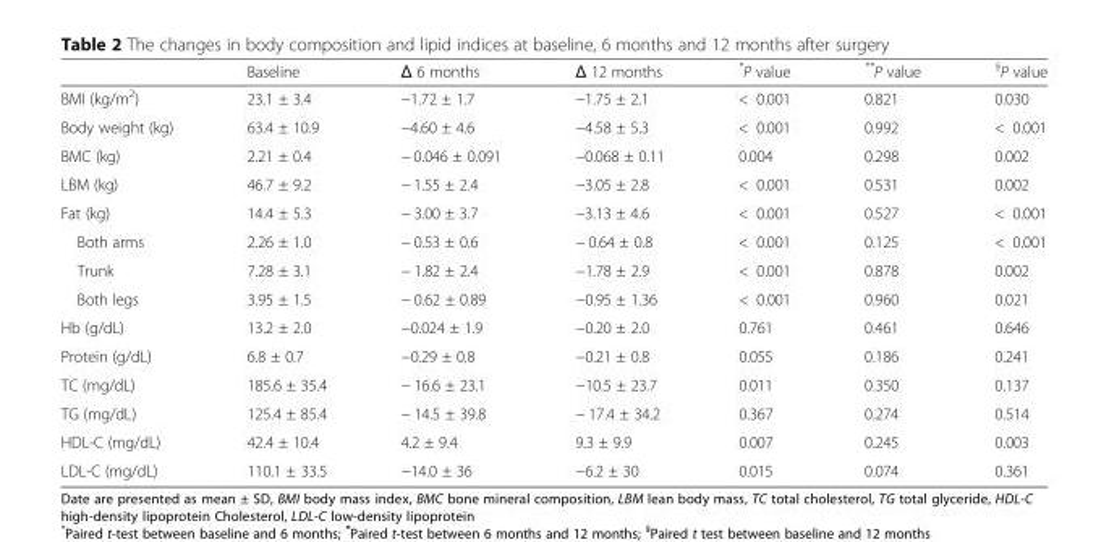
<table><thead><tr><td></td><td>Baseline</td><td>Δ 6 months</td><td>Δ 12 months</td><td>*P value</td><td>**P value</td><td><sup>§</sup>P value</td></tr></thead><tbody><tr><td>BMI (kg/m<sup>2</sup>)</td><td>23.1 ± 3.4</td><td>−1.72 ± 1.7</td><td>−1.75 ± 2.1</td><td>&lt; 0.001</td><td>0.821</td><td>0.030</td></tr><tr><td>Body weight (kg)</td><td>63.4 ± 10.9</td><td>−4.60 ± 4.6</td><td>−4.58 ± 5.3</td><td>&lt; 0.001</td><td>0.992</td><td>&lt; 0.001</td></tr><tr><td>BMC (kg)</td><td>2.21 ± 0.4</td><td>− 0.046 ± 0.091</td><td>−0.068 ± 0.11</td><td>0.004</td><td>0.298</td><td>0.002</td></tr><tr><td>LBM (kg)</td><td>46.7 ± 9.2</td><td>− 1.55 ± 2.4</td><td>−3.05 ± 2.8</td><td>&lt; 0.001</td><td>0.531</td><td>0.002</td></tr><tr><td>Fat (kg)</td><td>14.4 ± 5.3</td><td>− 3.00 ± 3.7</td><td>−3.13 ± 4.6</td><td>&lt; 0.001</td><td>0.527</td><td>&lt; 0.001</td></tr><tr><td>Both arms</td><td>2.26 ± 1.0</td><td>− 0.53 ± 0.6</td><td>− 0.64 ± 0.8</td><td>&lt; 0.001</td><td>0.125</td><td>&lt; 0.001</td></tr><tr><td>Trunk</td><td>7.28 ± 3.1</td><td>− 1.82 ± 2.4</td><td>−1.78 ± 2.9</td><td>&lt; 0.001</td><td>0.878</td><td>0.002</td></tr><tr><td>Both legs</td><td>3.95 ± 1.5</td><td>− 0.62 ± 0.89</td><td>−0.95 ± 1.36</td><td>&lt; 0.001</td><td>0.960</td><td>0.021</td></tr><tr><td>Hb (g/dL)</td><td>13.2 ± 2.0</td><td>−0.024 ± 1.9</td><td>−0.20 ± 2.0</td><td>0.761</td><td>0.461</td><td>0.646</td></tr><tr><td>Protein (g/dL)</td><td>6.8 ± 0.7</td><td>−0.29 ± 0.8</td><td>−0.21 ± 0.8</td><td>0.055</td><td>0.186</td><td>0.241</td></tr><tr><td>TC (mg/dL)</td><td>185.6 ± 35.4</td><td>− 16.6 ± 23.1</td><td>−10.5 ± 23.7</td><td>0.011</td><td>0.350</td><td>0.137</td></tr><tr><td>TG (mg/dL)</td><td>125.4 ± 85.4</td><td>− 14.5 ± 39.8</td><td>− 17.4 ± 34.2</td><td>0.367</td><td>0.274</td><td>0.514</td></tr><tr><td>HDL-C (mg/dL)</td><td>42.4 ± 10.4</td><td>4.2 ± 9.4</td><td>9.3 ± 9.9</td><td>0.007</td><td>0.245</td><td>0.003</td></tr><tr><td>LDL-C (mg/dL)</td><td>110.1 ± 33.5</td><td>−14.0 ± 36</td><td>−6.2 ± 30</td><td>0.015</td><td>0.074</td><td>0.361</td></tr></tbody></table>